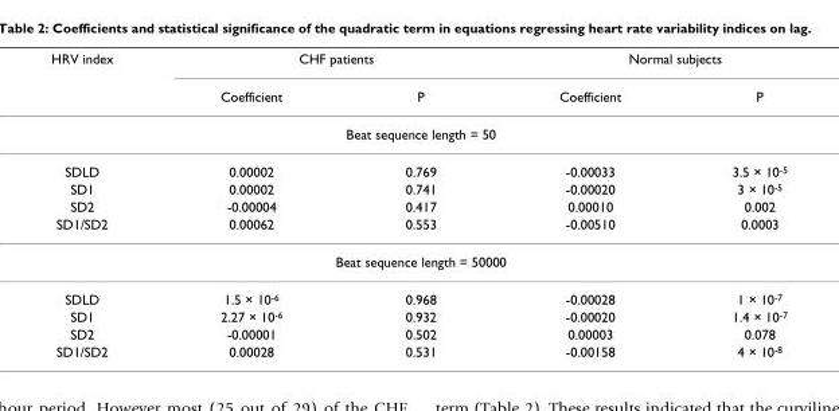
<table><thead><tr><td rowspan="2">HRV index</td><td colspan="2">CHF patients</td><td colspan="2">Normal subjects</td></tr><tr><td>Coefficient</td><td>P</td><td>Coefficient</td><td>P</td></tr></thead><tbody><tr><td colspan="5">Beat sequence length = 50</td></tr><tr><td>SDLD</td><td>0.00002</td><td>0.769</td><td>-0.00033</td><td>3.5 × 10<sup>-5</sup></td></tr><tr><td>SD1</td><td>0.00002</td><td>0.741</td><td>-0.00020</td><td>3 × 10<sup>-5</sup></td></tr><tr><td>SD2</td><td>-0.00004</td><td>0.417</td><td>0.00010</td><td>0.002</td></tr><tr><td>SD1/SD2</td><td>0.00062</td><td>0.553</td><td>-0.00510</td><td>0.0003</td></tr><tr><td colspan="5">Beat sequence length = 50000</td></tr><tr><td>SDLD</td><td>1.5 × 10<sup>-6</sup></td><td>0.968</td><td>-0.00028</td><td>1 × 10<sup>-7</sup></td></tr><tr><td>SD1</td><td>2.27 × 10<sup>-6</sup></td><td>0.932</td><td>-0.00020</td><td>1.4 × 10<sup>-7</sup></td></tr><tr><td>SD2</td><td>-0.00001</td><td>0.502</td><td>0.00003</td><td>0.078</td></tr><tr><td>SD1/SD2</td><td>0.00028</td><td>0.531</td><td>-0.00158</td><td>4 × 10<sup>-8</sup></td></tr></tbody></table>